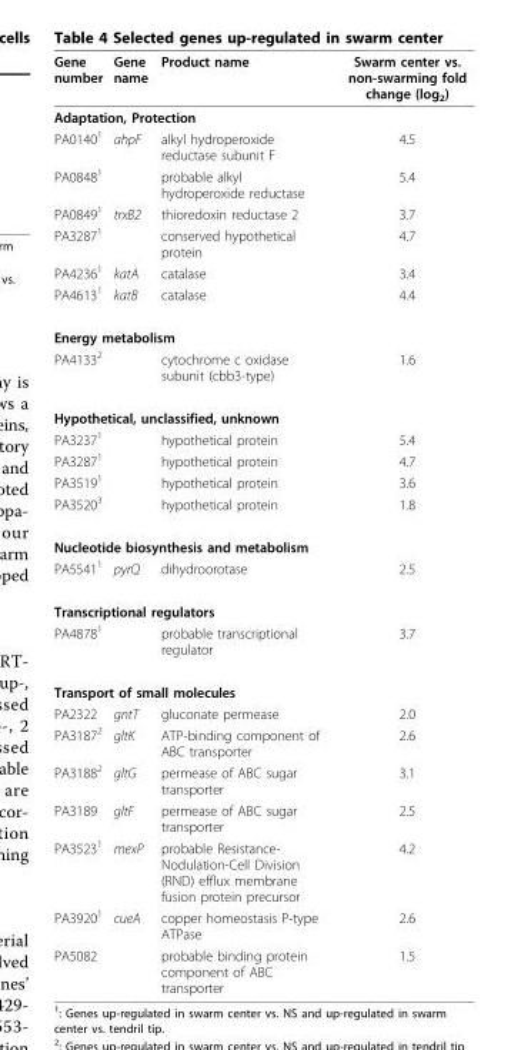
<table><thead><tr><td>Gene number</td><td>Gene name</td><td>Product name</td><td>Swarm center vs. non-swarming fold change (log<sub>2</sub>)</td></tr></thead><tbody><tr><td colspan="4">Adaptation, Protection</td></tr><tr><td>PA0140<sup>1</sup></td><td>ahpF</td><td>alkyl hydroperoxide reductase subunit F</td><td>4.5</td></tr><tr><td>PA0848<sup>1</sup></td><td></td><td>probable alkyl hydroperoxide reductase</td><td>5.4</td></tr><tr><td>PA0849<sup>1</sup></td><td>trxB2</td><td>thioredoxin reductase 2</td><td>3.7</td></tr><tr><td>PA3287<sup>1</sup></td><td></td><td>conserved hypothetical protein</td><td>4.7</td></tr><tr><td>PA4236<sup>1</sup></td><td>katA</td><td>catalase</td><td>3.4</td></tr><tr><td>PA4613<sup>1</sup></td><td>katB</td><td>catalase</td><td>4.4</td></tr><tr><td colspan="4">Energy metabolism</td></tr><tr><td>PA4133<sup>2</sup></td><td></td><td>cytochrome c oxidase subunit (cbb3-type)</td><td>1.6</td></tr><tr><td colspan="4">Hypothetical, unclassified, unknown</td></tr><tr><td>PA3237<sup>1</sup></td><td></td><td>hypothetical protein</td><td>5.4</td></tr><tr><td>PA3287<sup>1</sup></td><td></td><td>hypothetical protein</td><td>4.7</td></tr><tr><td>PA3519<sup>1</sup></td><td></td><td>hypothetical protein</td><td>3.6</td></tr><tr><td>PA3520<sup>3</sup></td><td></td><td>hypothetical protein</td><td>1.8</td></tr><tr><td colspan="4">Nucleotide biosynthesis and metabolism</td></tr><tr><td>PA5541<sup>1</sup></td><td>pyrQ</td><td>dihydroorotase</td><td>2.5</td></tr><tr><td colspan="4">Transcriptional regulators</td></tr><tr><td>PA4878<sup>1</sup></td><td></td><td>probable transcriptional regulator</td><td>3.7</td></tr><tr><td colspan="4">Transport of small molecules</td></tr><tr><td>PA2322</td><td>gntT</td><td>gluconate permease</td><td>2.0</td></tr><tr><td>PA3187<sup>2</sup></td><td>gltK</td><td>ATP-binding component of ABC transporter</td><td>2.6</td></tr><tr><td>PA3188<sup>2</sup></td><td>gltG</td><td>permease of ABC sugar transporter</td><td>3.1</td></tr><tr><td>PA3189</td><td>gltF</td><td>permease of ABC sugar transporter</td><td>2.5</td></tr><tr><td>PA3523<sup>1</sup></td><td>mexP</td><td>probable Resistance- Nodulation-Cell Division (RND) efflux membrane fusion protein precursor</td><td>4.2</td></tr><tr><td>PA3920<sup>1</sup></td><td>cueA</td><td>copper homeostasis P-type ATPase</td><td>2.6</td></tr><tr><td>PA5082</td><td></td><td>probable binding protein component of ABC transporter</td><td>1.5</td></tr></tbody></table>